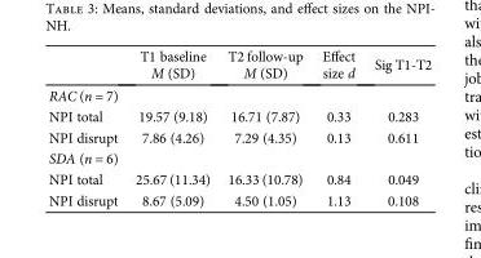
<table><thead><tr><td></td><td>T1 baseline M (SD)</td><td>T2 follow-up M (SD)</td><td>Effect size d</td><td>Sig T1-T2</td></tr></thead><tbody><tr><td colspan="5">RAC (n = 7)</td></tr><tr><td>NPI total</td><td>19.57 (9.18)</td><td>16.71 (7.87)</td><td>0.33</td><td>0.283</td></tr><tr><td>NPI disrupt</td><td>7.86 (4.26)</td><td>7.29 (4.35)</td><td>0.13</td><td>0.611</td></tr><tr><td colspan="5">SDA (n = 6)</td></tr><tr><td>NPI total</td><td>25.67 (11.34)</td><td>16.33 (10.78)</td><td>0.84</td><td>0.049</td></tr><tr><td>NPI disrupt</td><td>8.67 (5.09)</td><td>4.50 (1.05)</td><td>1.13</td><td>0.108</td></tr></tbody></table>